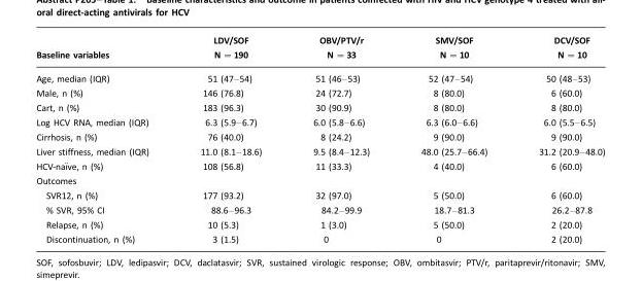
<table><thead><tr><td rowspan="2">Baseline variables</td><td rowspan="2">LDV/SOF N =190</td><td rowspan="2">OBV/PTV/r N =33</td><td rowspan="2">SMV/SOF N =10</td><td rowspan="2">DCV/SOF N =10</td></tr><tr></tr></thead><tbody><tr><td>Age, median (IQR)</td><td>51 (47–54)</td><td>51 (46–53)</td><td>52 (47–54)</td><td>50 (48–53)</td></tr><tr><td>Male, n (%)</td><td>146 (76.8)</td><td>24 (72.7)</td><td>8 (80.0)</td><td>6 (60.0)</td></tr><tr><td>Cart, n (%)</td><td>183 (96.3)</td><td>30 (90.9)</td><td>8 (80.0)</td><td>8 (80.0)</td></tr><tr><td>Log HCV RNA, median (IQR)</td><td>6.3 (5.9–6.7)</td><td>6.0 (5.8–6.6)</td><td>6.3 (6.0–6.6)</td><td>6.0 (5.5–6.5)</td></tr><tr><td>Cirrhosis, n (%)</td><td>76 (40.0)</td><td>8 (24.2)</td><td>9 (90.0)</td><td>9 (90.0)</td></tr><tr><td>Liver stiffness, median (IQR)</td><td>11.0 (8.1–18.6)</td><td>9.5 (8.4–12.3)</td><td>48.0 (25.7–66.4)</td><td>31.2 (20.9–48.0)</td></tr><tr><td>HCV-naı¨ve, n (%)</td><td>108 (56.8)</td><td>11 (33.3)</td><td>4 (40.0)</td><td>6 (60.0)</td></tr><tr><td colspan="5">Outcomes</td></tr><tr><td>SVR12, n (%)</td><td>177 (93.2)</td><td>32 (97.0)</td><td>5 (50.0)</td><td>6 (60.0)</td></tr><tr><td>% SVR, 95% CI</td><td>88.6–96.3</td><td>84.2–99.9</td><td>18.7–81.3</td><td>26.2–87.8</td></tr><tr><td>Relapse, n (%)</td><td>10 (5.3)</td><td>1 (3.0)</td><td>5 (50.0)</td><td>2 (20.0)</td></tr><tr><td>Discontinuation, n (%)</td><td>3 (1.5)</td><td>0</td><td>0</td><td>2 (20.0)</td></tr></tbody></table>